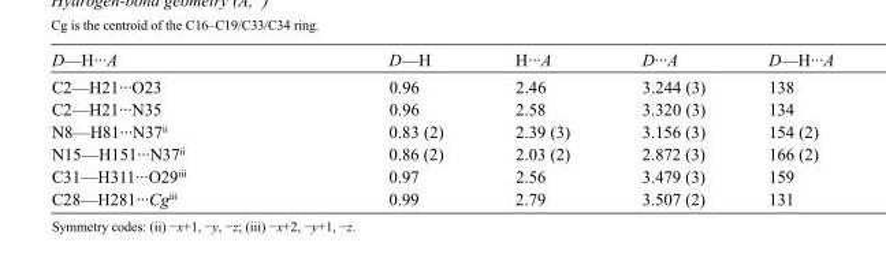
<table><tbody><tr><td>D—H···A</td><td>D—H</td><td>H···A</td><td>D···A</td><td>D—H···A</td></tr><tr><td>C2—H21···O23</td><td>0.96</td><td>2.46</td><td>3.244 (3)</td><td>138</td></tr><tr><td>C2—H21···N35</td><td>0.96</td><td>2.58</td><td>3.320 (3)</td><td>134</td></tr><tr><td>N8—H81···N37<sup>ii</sup></td><td>0.83 (2)</td><td>2.39 (3)</td><td>3.156 (3)</td><td>154 (2)</td></tr><tr><td>N15—H151···N37<sup>ii</sup></td><td>0.86 (2)</td><td>2.03 (2)</td><td>2.872 (3)</td><td>166 (2)</td></tr><tr><td>C31—H311···O29<sup>iii</sup></td><td>0.97</td><td>2.56</td><td>3.479 (3)</td><td>159</td></tr><tr><td>C28—H281···Cg<sup>iii</sup></td><td>0.99</td><td>2.79</td><td>3.507 (2)</td><td>131</td></tr></tbody></table>